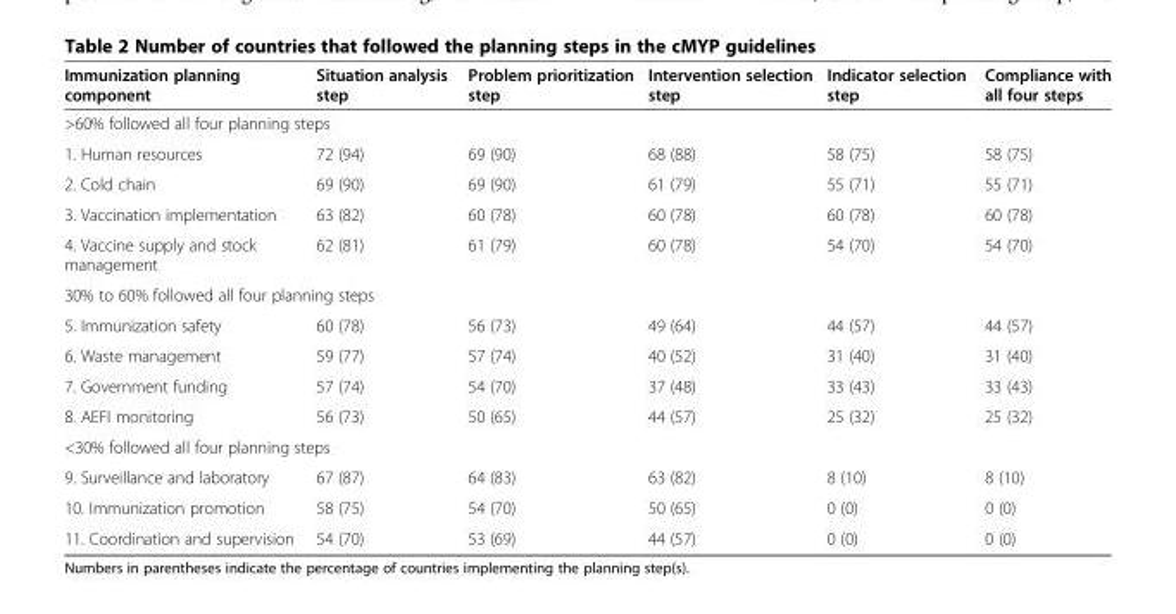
<table><thead><tr><td>Immunization planning component</td><td>Situation analysis step</td><td>Problem prioritization step</td><td>Intervention selection step</td><td>Indicator selection step</td><td>Compliance with all four steps</td></tr></thead><tbody><tr><td colspan="6">&gt;60% followed all four planning steps</td></tr><tr><td>1. Human resources</td><td>72 (94)</td><td>69 (90)</td><td>68 (88)</td><td>58 (75)</td><td>58 (75)</td></tr><tr><td>2. Cold chain</td><td>69 (90)</td><td>69 (90)</td><td>61 (79)</td><td>55 (71)</td><td>55 (71)</td></tr><tr><td>3. Vaccination implementation</td><td>63 (82)</td><td>60 (78)</td><td>60 (78)</td><td>60 (78)</td><td>60 (78)</td></tr><tr><td>4. Vaccine supply and stock management</td><td>62 (81)</td><td>61 (79)</td><td>60 (78)</td><td>54 (70)</td><td>54 (70)</td></tr><tr><td colspan="6">30% to 60% followed all four planning steps</td></tr><tr><td>5. Immunization safety</td><td>60 (78)</td><td>56 (73)</td><td>49 (64)</td><td>44 (57)</td><td>44 (57)</td></tr><tr><td>6. Waste management</td><td>59 (77)</td><td>57 (74)</td><td>40 (52)</td><td>31 (40)</td><td>31 (40)</td></tr><tr><td>7. Government funding</td><td>57 (74)</td><td>54 (70)</td><td>37 (48)</td><td>33 (43)</td><td>33 (43)</td></tr><tr><td>8. AEFI monitoring</td><td>56 (73)</td><td>50 (65)</td><td>44 (57)</td><td>25 (32)</td><td>25 (32)</td></tr><tr><td colspan="6">&lt;30% followed all four planning steps</td></tr><tr><td>9. Surveillance and laboratory</td><td>67 (87)</td><td>64 (83)</td><td>63 (82)</td><td>8 (10)</td><td>8 (10)</td></tr><tr><td>10. Immunization promotion</td><td>58 (75)</td><td>54 (70)</td><td>50 (65)</td><td>0 (0)</td><td>0 (0)</td></tr><tr><td>11. Coordination and supervision</td><td>54 (70)</td><td>53 (69)</td><td>44 (57)</td><td>0 (0)</td><td>0 (0)</td></tr></tbody></table>